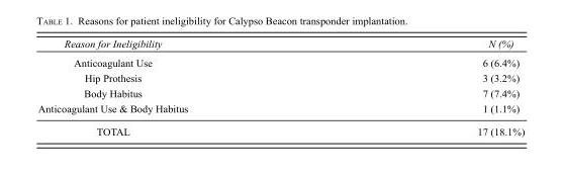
<table><thead><tr><td>Reason for Ineligibility</td><td>N (%)</td></tr></thead><tbody><tr><td>Anticoagulant Use</td><td>6 (6.4%)</td></tr><tr><td>Hip Prothesis</td><td>3 (3.2%)</td></tr><tr><td>Body Habitus</td><td>7 (7.4%)</td></tr><tr><td>Anticoagulant Use &amp; Body Habitus</td><td>1 (1.1%)</td></tr><tr><td>TOTAL</td><td>17 (18.1%)</td></tr></tbody></table>